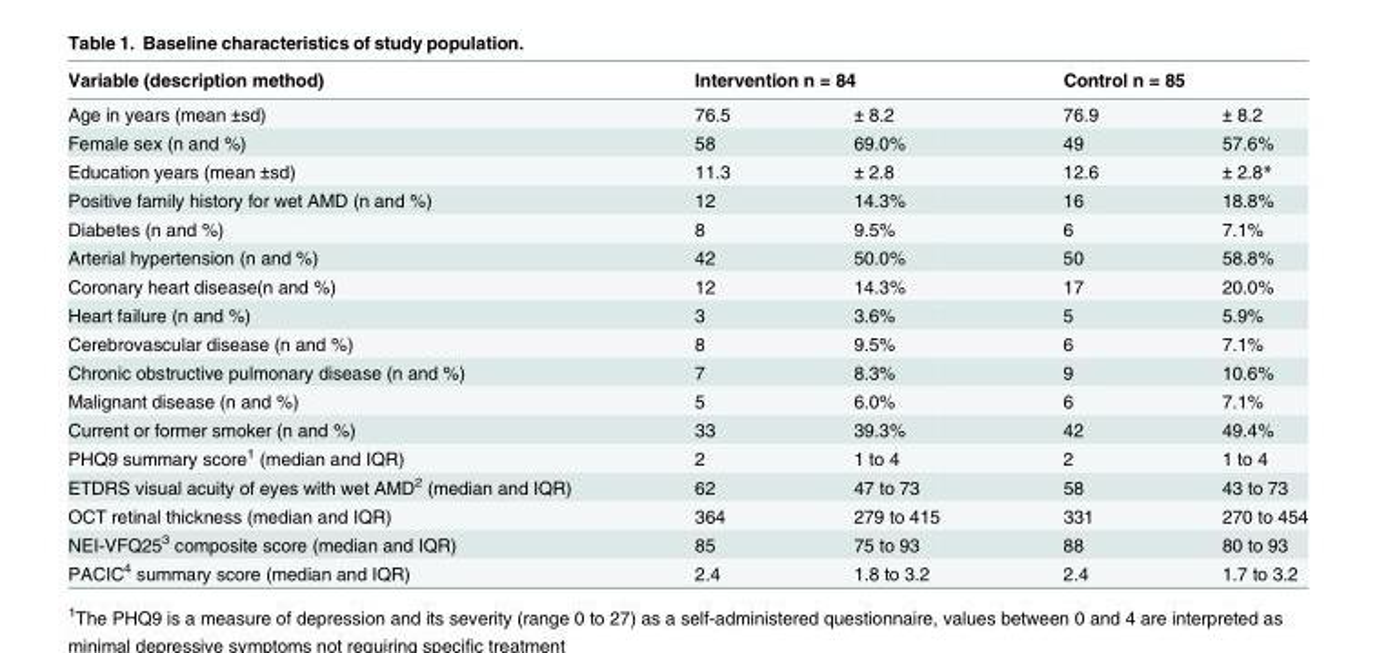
<table><thead><tr><td rowspan="2">Variable (description method) Age in years (mean ±sd)</td><td colspan="2">Intervention n = 84</td><td colspan="2">Control n = 85</td></tr><tr><td>76.5</td><td>± 8.2</td><td>76.9</td><td>± 8.2</td></tr></thead><tbody><tr><td>Female sex (n and %)</td><td>58</td><td>69.0%</td><td>49</td><td>57.6%</td></tr><tr><td>Education years (mean ±sd)</td><td>11.3</td><td>± 2.8</td><td>12.6</td><td>± 2.8*</td></tr><tr><td>Positive family history for wet AMD (n and %)</td><td>12</td><td>14.3%</td><td>16</td><td>18.8%</td></tr><tr><td>Diabetes (n and %)</td><td>8</td><td>9.5%</td><td>6</td><td>7.1%</td></tr><tr><td>Arterial hypertension (n and %)</td><td>42</td><td>50.0%</td><td>50</td><td>58.8%</td></tr><tr><td>Coronary heart disease(n and %)</td><td>12</td><td>14.3%</td><td>17</td><td>20.0%</td></tr><tr><td>Heart failure (n and %)</td><td>3</td><td>3.6%</td><td>5</td><td>5.9%</td></tr><tr><td>Cerebrovascular disease (n and %)</td><td>8</td><td>9.5%</td><td>6</td><td>7.1%</td></tr><tr><td>Chronic obstructive pulmonary disease (n and %)</td><td>7</td><td>8.3%</td><td>9</td><td>10.6%</td></tr><tr><td>Malignant disease (n and %)</td><td>5</td><td>6.0%</td><td>6</td><td>7.1%</td></tr><tr><td>Current or former smoker (n and %)</td><td>33</td><td>39.3%</td><td>42</td><td>49.4%</td></tr><tr><td>PHQ9 summary score<sup>1</sup> (median and IQR)</td><td>2</td><td>1 to 4</td><td>2</td><td>1 to 4</td></tr><tr><td>ETDRS visual acuity of eyes with wet AMD<sup>2</sup> (median and IQR)</td><td>62</td><td>47 to 73</td><td>58</td><td>43 to 73</td></tr><tr><td>OCT retinal thickness (median and IQR)</td><td>364</td><td>279 to 415</td><td>331</td><td>270 to 454</td></tr><tr><td>NEI-VFQ25<sup>3</sup> composite score (median and IQR)</td><td>85</td><td>75 to 93</td><td>88</td><td>80 to 93</td></tr><tr><td>PACIC<sup>4</sup> summary score (median and IQR)</td><td>2.4</td><td>1.8 to 3.2</td><td>2.4</td><td>1.7 to 3.2</td></tr></tbody></table>